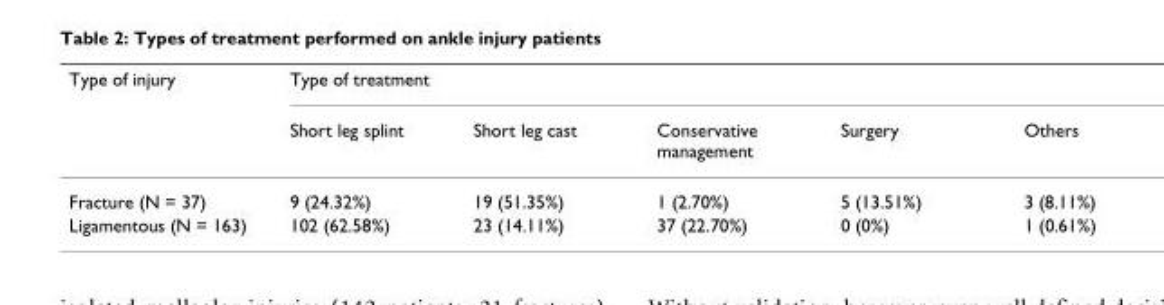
<table><thead><tr><td rowspan="2">Type of injury</td><td colspan="5">Type of treatment</td></tr><tr><td>Short leg splint</td><td>Short leg cast</td><td>Conservative management</td><td>Surgery</td><td>Others</td></tr></thead><tbody><tr><td>Fracture (N = 37)</td><td>9 (24.32%)</td><td>19 (51.35%)</td><td>1 (2.70%)</td><td>5 (13.51%)</td><td>3 (8.11%)</td></tr><tr><td>Ligamentous (N = 163)</td><td>102 (62.58%)</td><td>23 (14.11%)</td><td>37 (22.70%)</td><td>0 (0%)</td><td>1 (0.61%)</td></tr></tbody></table>